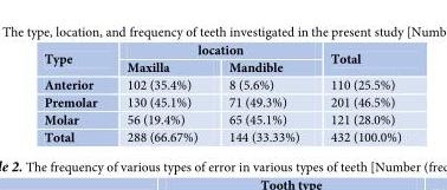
<table><thead><tr><td rowspan="2">Type</td><td colspan="2">location</td><td rowspan="2">Total</td></tr><tr><td>Maxilla</td><td>Mandible</td></tr></thead><tbody><tr><td>Anterior</td><td>102 (35.4%)</td><td>8 (5.6%)</td><td>110 (25.5%)</td></tr><tr><td>Premolar</td><td>130 (45.1%)</td><td>71 (49.3%)</td><td>201 (46.5%)</td></tr><tr><td>Molar</td><td>56 (19.4%)</td><td>65 (45.1%)</td><td>121 (28.0%)</td></tr><tr><td>Total</td><td>288 (66.67%)</td><td>144 (33.33%)</td><td>432 (100.0%)</td></tr></tbody></table>